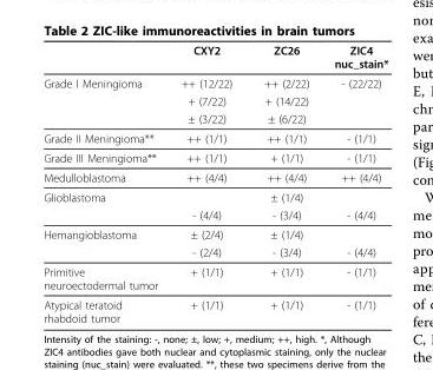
<table><thead><tr><td></td><td>CXY2</td><td>ZC26</td><td>ZIC4 nuc_stain*</td></tr></thead><tbody><tr><td rowspan="3">Grade I Meningioma</td><td>++ (12/22)</td><td>++ (2/22)</td><td>- (22/22)</td></tr><tr><td>+ (7/22)</td><td>+ (14/22)</td><td></td></tr><tr><td>± (3/22)</td><td>± (6/22)</td><td></td></tr><tr><td>Grade II Meningioma**</td><td>++ (1/1)</td><td>++ (1/1)</td><td>- (1/1)</td></tr><tr><td>Grade III Meningioma**</td><td>++ (1/1)</td><td>+ (1/1)</td><td>- (1/1)</td></tr><tr><td>Medulloblastoma</td><td>++ (4/4)</td><td>++ (4/4)</td><td>++ (4/4)</td></tr><tr><td rowspan="2">Glioblastoma</td><td></td><td>± (1/4)</td><td></td></tr><tr><td>- (4/4)</td><td>- (3/4)</td><td>- (4/4)</td></tr><tr><td rowspan="2">Hemangioblastoma</td><td>± (2/4)</td><td>± (1/4)</td><td></td></tr><tr><td>- (2/4)</td><td>- (3/4)</td><td>- (4/4)</td></tr><tr><td>Primitive neuroectodermal tumor</td><td>+ (1/1)</td><td>+ (1/1)</td><td>- (1/1)</td></tr><tr><td>Atypical teratoid rhabdoid tumor</td><td>+ (1/1)</td><td>+ (1/1)</td><td>- (1/1)</td></tr></tbody></table>